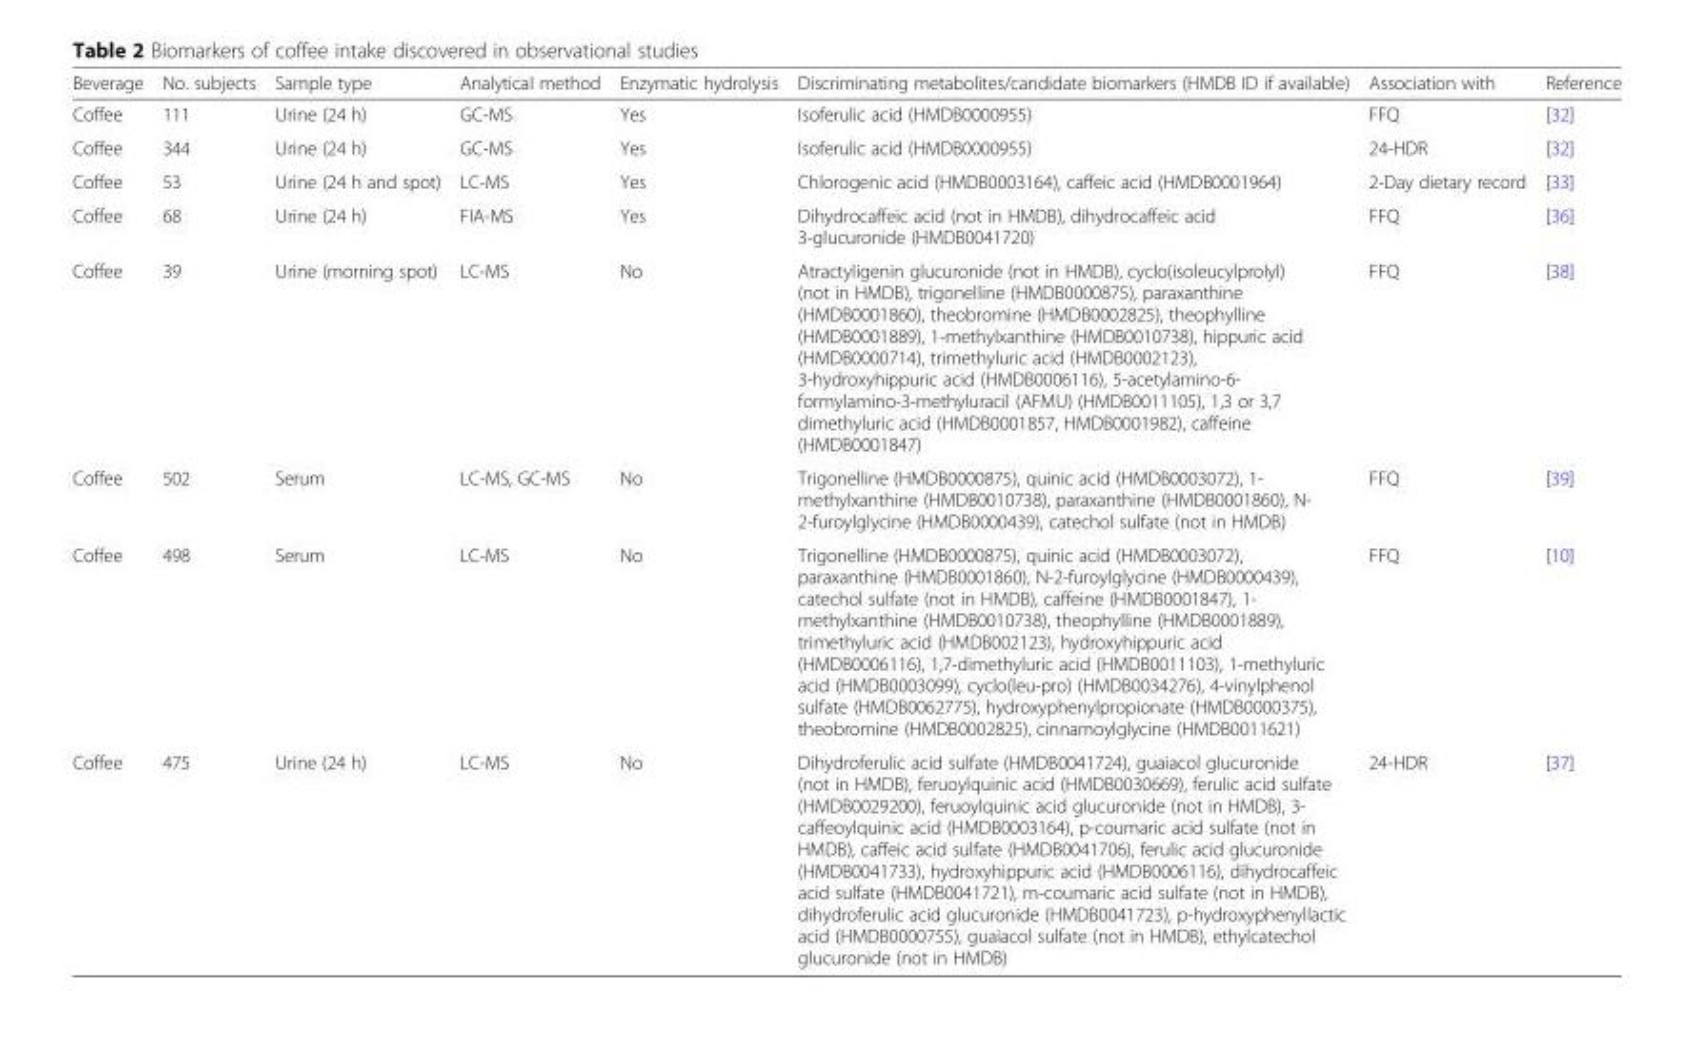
<table><thead><tr><td>Beverage</td><td>No. subjects</td><td>Sample type</td><td>Analytical method</td><td>Enzymatic hydrolysis</td><td>Discriminating metabolites/candidate biomarkers (HMDB ID if available)</td><td>Association with</td><td>Reference</td></tr></thead><tbody><tr><td>Coffee</td><td>111</td><td>Urine (24 h)</td><td>GC-MS</td><td>Yes</td><td>Isoferulic acid (HMDB0000955)</td><td>FFQ</td><td>[32]</td></tr><tr><td>Coffee</td><td>344</td><td>Urine (24 h)</td><td>GC-MS</td><td>Yes</td><td>Isoferulic acid (HMDB0000955)</td><td>24-HDR</td><td>[32]</td></tr><tr><td>Coffee</td><td>53</td><td>Urine (24 h and spot)</td><td>LC-MS</td><td>Yes</td><td>Chlorogenic acid (HMDB0003164), caffeic acid (HMDB0001964)</td><td>2-Day dietary record</td><td>[33]</td></tr><tr><td>Coffee</td><td>68</td><td>Urine (24 h)</td><td>FIA-MS</td><td>Yes</td><td>Dihydrocaffeic acid (not in HMDB), dihydrocaffeic acid 3-glucuronide (HMDB0041720)</td><td>FFQ</td><td>[36]</td></tr><tr><td>Coffee</td><td>39</td><td>Urine (morning spot)</td><td>LC-MS</td><td>No</td><td>Atractyligenin glucuronide (not in HMDB), cyclo(isoleucylprolyl) (not in HMDB), trigonelline (HMDB0000875), paraxanthine (HMDB0001860), theobromine (HMDB0002825), theophylline (HMDB0001889), 1-methylxanthine (HMDB0010738), hippuric acid (HMDB0000714), trimethyluric acid (HMDB0002123), 3-hydroxyhippuric acid (HMDB0006116), 5-acetylamino-6- formylamino-3-methyluracil (AFMU) (HMDB0011105), 1,3 or 3,7 dimethyluric acid (HMDB0001857, HMDB0001982), caffeine (HMDB0001847)</td><td>FFQ</td><td>[38]</td></tr><tr><td>Coffee</td><td>502</td><td>Serum</td><td>LC-MS, GC-MS</td><td>No</td><td>Trigonelline (HMDB0000875), quinic acid (HMDB0003072), 1- methylxanthine (HMDB0010738), paraxanthine (HMDB0001860), N- 2-furoylglycine (HMDB0000439), catechol sulfate (not in HMDB)</td><td>FFQ</td><td>[39]</td></tr><tr><td>Coffee</td><td>498</td><td>Serum</td><td>LC-MS</td><td>No</td><td>Trigonelline (HMDB0000875), quinic acid (HMDB0003072), paraxanthine (HMDB0001860), N-2-furoylglycine (HMDB0000439), catechol sulfate (not in HMDB), caffeine (HMDB0001847), 1- methylxanthine (HMDB0010738), theophylline (HMDB0001889), trimethyluric acid (HMDB002123), hydroxyhippuric acid (HMDB0006116), 1,7-dimethyluric acid (HMDB0011103), 1-methyluric acid (HMDB0003099), cyclo(leu-pro) (HMDB0034276), 4-vinylphenol sulfate (HMDB0062775), hydroxyphenylpropionate (HMDB0000375), theobromine (HMDB0002825), cinnamoylglycine (HMDB0011621)</td><td>FFQ</td><td>[10]</td></tr><tr><td>Coffee</td><td>475</td><td>Urine (24 h)</td><td>LC-MS</td><td>No</td><td>Dihydroferulic acid sulfate (HMDB0041724), guaiacol glucuronide (not in HMDB), feruoylquinic acid (HMDB0030669), ferulic acid sulfate (HMDB0029200), feruoylquinic acid glucuronide (not in HMDB), 3- caffeoylquinic acid (HMDB0003164), p-coumaric acid sulfate (not in HMDB), caffeic acid sulfate (HMDB0041706), ferulic acid glucuronide (HMDB0041733), hydroxyhippuric acid (HMDB0006116), dihydrocaffeic acid sulfate (HMDB0041721), m-coumaric acid sulfate (not in HMDB), dihydroferulic acid glucuronide (HMDB0041723), p-hydroxyphenyllactic acid (HMDB0000755), guaiacol sulfate (not in HMDB), ethylcatechol glucuronide (not in HMDB)</td><td>24-HDR</td><td>[37]</td></tr></tbody></table>